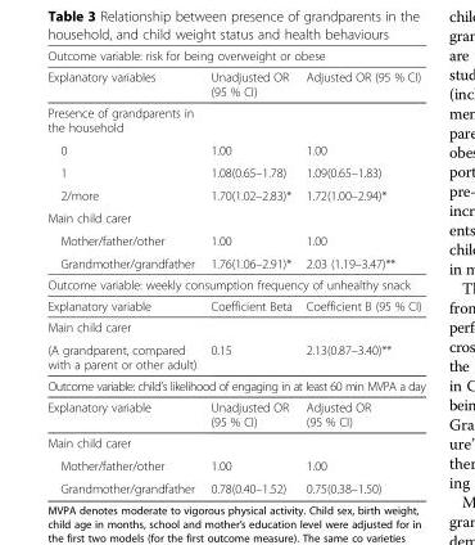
<table><thead><tr><td colspan="3">Outcome variable: risk for being overweight or obese</td></tr><tr><td>Explanatory variables</td><td>Unadjusted OR (95 % CI)</td><td>Adjusted OR (95 % CI)</td></tr></thead><tbody><tr><td colspan="3">Presence of grandparents in the household</td></tr><tr><td>0</td><td>1.00</td><td>1.00</td></tr><tr><td>1</td><td>1.08(0.65–1.78)</td><td>1.09(0.65–1.83)</td></tr><tr><td>2/more</td><td>1.70(1.02–2.83)*</td><td>1.72(1.00–2.94)*</td></tr><tr><td colspan="3">Main child carer</td></tr><tr><td>Mother/father/other</td><td>1.00</td><td>1.00</td></tr><tr><td>Grandmother/grandfather</td><td>1.76(1.06–2.91)*</td><td>2.03 (1.19–3.47)**</td></tr><tr><td colspan="3">Outcome variable: weekly consumption frequency of unhealthy snack</td></tr><tr><td>Explanatory variable</td><td>Coefficient Beta</td><td>Coefficient B (95 % CI)</td></tr><tr><td colspan="3">Main child carer</td></tr><tr><td>(A grandparent, compared with a parent or other adult)</td><td>0.15</td><td>2.13(0.87–3.40)**</td></tr><tr><td colspan="3">Outcome variable: child’s likelihood of engaging in at least 60 min MVPA a day</td></tr><tr><td>Explanatory variable</td><td>Unadjusted OR (95 % CI)</td><td>Adjusted OR (95 % CI)</td></tr><tr><td colspan="3">Main child carer</td></tr><tr><td>Mother/father/other</td><td>1.00</td><td>1.00</td></tr><tr><td>Grandmother/grandfather</td><td>0.78(0.40–1.52)</td><td>0.75(0.38–1.50)</td></tr></tbody></table>